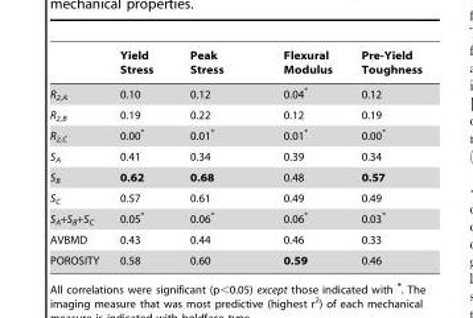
<table><thead><tr><td></td><td>Yield Stress</td><td>Peak Stress</td><td>Flexural Modulus</td><td>Pre-Yield Toughness</td></tr></thead><tbody><tr><td>R<sub>2,A</sub></td><td>0.10</td><td>0.12</td><td>0.04*</td><td>0.12</td></tr><tr><td>R<sub>2,B</sub></td><td>0.19</td><td>0.22</td><td>0.12</td><td>0.19</td></tr><tr><td>R<sub>2,C</sub></td><td>0.00*</td><td>0.01*</td><td>0.01*</td><td>0.00*</td></tr><tr><td>S<sub>A</sub></td><td>0.41</td><td>0.34</td><td>0.39</td><td>0.34</td></tr><tr><td>S<sub>B</sub></td><td>0.62</td><td>0.68</td><td>0.48</td><td>0.57</td></tr><tr><td>S<sub>C</sub></td><td>0.57</td><td>0.61</td><td>0.49</td><td>0.49</td></tr><tr><td>S<sub>A</sub>+S<sub>B</sub>+S<sub>C</sub></td><td>0.05*</td><td>0.06*</td><td>0.06*</td><td>0.03*</td></tr><tr><td>AVBMD</td><td>0.43</td><td>0.44</td><td>0.46</td><td>0.33</td></tr><tr><td>POROSITY</td><td>0.58</td><td>0.60</td><td>0.59</td><td>0.46</td></tr></tbody></table>